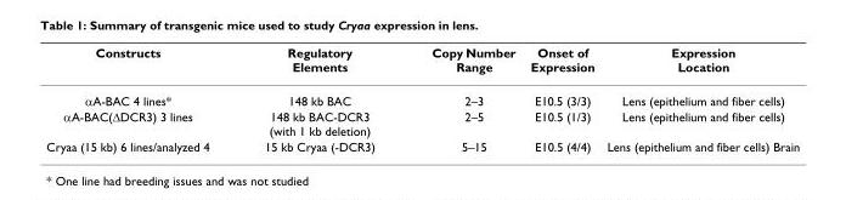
<table><thead><tr><td>Constructs</td><td>Regulatory Elements</td><td>Copy Number Range</td><td>Onset of Expression</td><td>Expression Location</td></tr></thead><tbody><tr><td>αA-BAC 4 lines*</td><td>148 kb BAC</td><td>2–3</td><td>E10.5 (3/3)</td><td>Lens (epithelium and fiber cells)</td></tr><tr><td>αA-BAC(ΔDCR3) 3 lines</td><td>148 kb BAC-DCR3 (with 1 kb deletion)</td><td>2–5</td><td>E10.5 (1/3)</td><td>Lens (epithelium and fiber cells)</td></tr><tr><td>Cryaa (15 kb) 6 lines/analyzed 4</td><td>15 kb Cryaa (-DCR3)</td><td>5–15</td><td>E10.5 (4/4)</td><td>Lens (epithelium and fiber cells) Brain</td></tr></tbody></table>